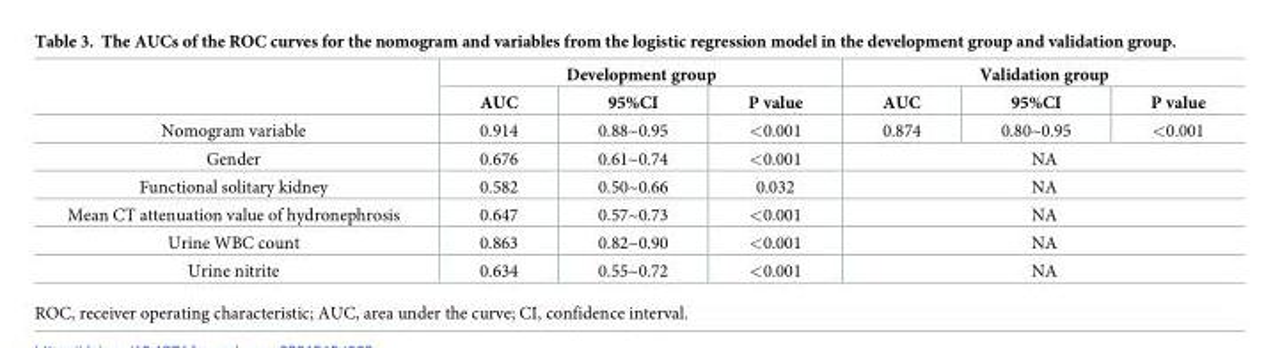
<table><thead><tr><td rowspan="2"></td><td colspan="3">Development group</td><td colspan="3">Validation group</td></tr><tr><td>AUC</td><td>95%CI</td><td>P value</td><td>AUC</td><td>95%CI</td><td>P value</td></tr></thead><tbody><tr><td>Nomogram variable</td><td>0.914</td><td>0.88~0.95</td><td>&lt;0.001</td><td>0.874</td><td>0.80~0.95</td><td>&lt;0.001</td></tr><tr><td>Gender</td><td>0.676</td><td>0.61~0.74</td><td>&lt;0.001</td><td colspan="3">NA</td></tr><tr><td>Functional solitary kidney</td><td>0.582</td><td>0.50~0.66</td><td>0.032</td><td colspan="3">NA</td></tr><tr><td>Mean CT attenuation value of hydronephrosis</td><td>0.647</td><td>0.57~0.73</td><td>&lt;0.001</td><td colspan="3">NA</td></tr><tr><td>Urine WBC count</td><td>0.863</td><td>0.82~0.90</td><td>&lt;0.001</td><td colspan="3">NA</td></tr><tr><td>Urine nitrite</td><td>0.634</td><td>0.55~0.72</td><td>&lt;0.001</td><td colspan="3">NA</td></tr></tbody></table>